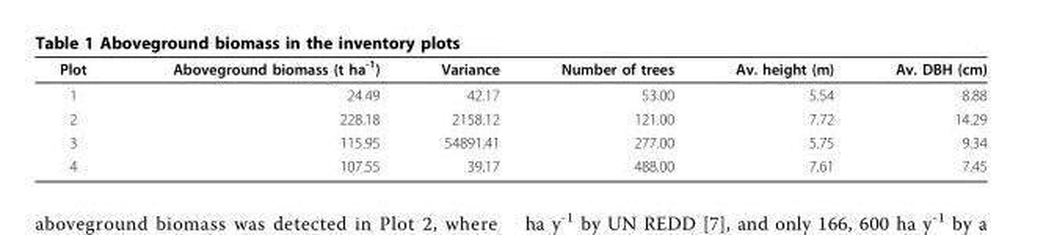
<table><thead><tr><td>Plot</td><td>Aboveground biomass (t ha<sup>-1</sup>)</td><td>Variance</td><td>Number of trees</td><td>Av. height (m)</td><td>Av. DBH (cm)</td></tr></thead><tbody><tr><td>1</td><td>24.49</td><td>42.17</td><td>53.00</td><td>5.54</td><td>8.88</td></tr><tr><td>2</td><td>228.18</td><td>2158.12</td><td>121.00</td><td>7.72</td><td>14.29</td></tr><tr><td>3</td><td>115.95</td><td>54891.41</td><td>277.00</td><td>5.75</td><td>9.34</td></tr><tr><td>4</td><td>107.55</td><td>39.17</td><td>488.00</td><td>7.61</td><td>7.45</td></tr></tbody></table>